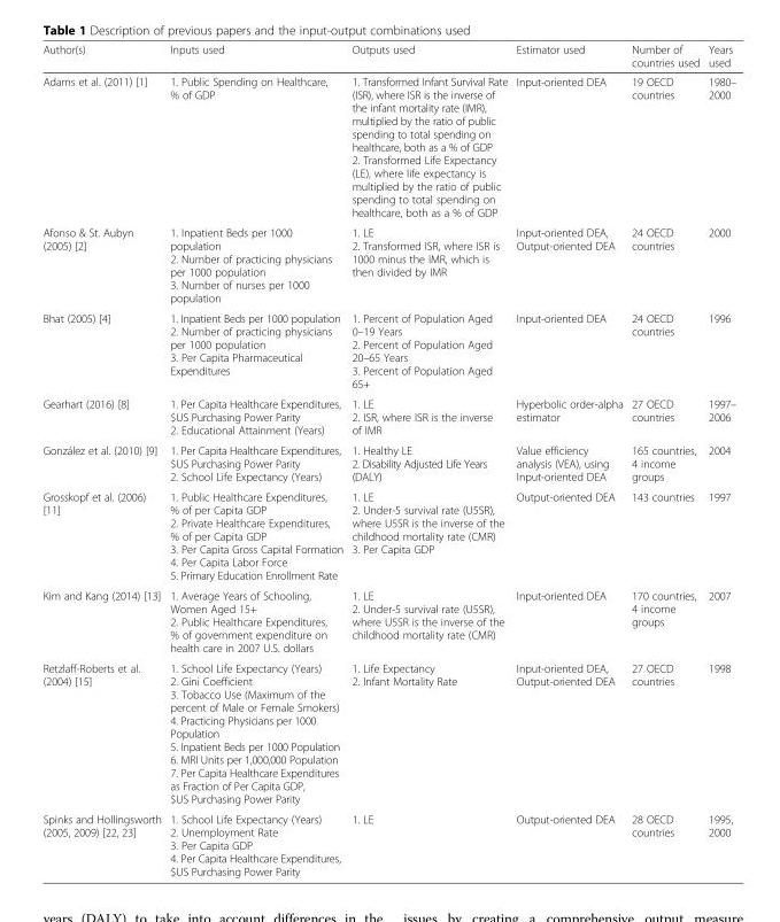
<table><thead><tr><td>Author(s)</td><td>Inputs used</td><td>Outputs used</td><td>Estimator used</td><td>Number of countries used</td><td>Years used</td></tr></thead><tbody><tr><td>Adams et al. (2011) [1]</td><td>1. Public Spending on Healthcare, % of GDP</td><td>1. Transformed Infant Survival Rate (ISR), where ISR is the inverse of the infant mortality rate (IMR), multiplied by the ratio of public spending to total spending on healthcare, both as a % of GDP 2. Transformed Life Expectancy (LE), where life expectancy is multiplied by the ratio of public spending to total spending on healthcare, both as a % of GDP</td><td>Input-oriented DEA</td><td>19 OECD countries</td><td>1980– 2000</td></tr><tr><td>Afonso &amp; St. Aubyn (2005) [2]</td><td>1. Inpatient Beds per 1000 population 2. Number of practicing physicians per 1000 population 3. Number of nurses per 1000 population</td><td>1. LE 2. Transformed ISR, where ISR is 1000 minus the IMR, which is then divided by IMR</td><td>Input-oriented DEA, Output-oriented DEA</td><td>24 OECD countries</td><td>2000</td></tr><tr><td>Bhat (2005) [4]</td><td>1. Inpatient Beds per 1000 population 2. Number of practicing physicians per 1000 population 3. Per Capita Pharmaceutical Expenditures</td><td>1. Percent of Population Aged 0–19 Years 2. Percent of Population Aged 20–65 Years 3. Percent of Population Aged 65+</td><td>Input-oriented DEA</td><td>24 OECD countries</td><td>1996</td></tr><tr><td>Gearhart (2016) [8]</td><td>1. Per Capita Healthcare Expenditures, $US Purchasing Power Parity 2. Educational Attainment (Years)</td><td>1. LE 2. ISR, where ISR is the inverse of IMR</td><td>Hyperbolic order-alpha estimator</td><td>27 OECD countries</td><td>1997– 2006</td></tr><tr><td>González et al. (2010) [9]</td><td>1. Per Capita Healthcare Expenditures, $US Purchasing Power Parity 2. School Life Expectancy (Years)</td><td>1. Healthy LE 2. Disability Adjusted Life Years (DALY)</td><td>Value efficiency analysis (VEA), using Input-oriented DEA</td><td>165 countries, 4 income groups</td><td>2004</td></tr><tr><td>Grosskopf et al. (2006) [11]</td><td>1. Public Healthcare Expenditures, % of per Capita GDP 2. Private Healthcare Expenditures, % of per Capita GDP 3. Per Capita Gross Capital Formation 4. Per Capita Labor Force 5. Primary Education Enrollment Rate</td><td>1. LE 2. Under-5 survival rate (U5SR), where U5SR is the inverse of the childhood mortality rate (CMR) 3. Per Capita GDP</td><td>Output-oriented DEA</td><td>143 countries</td><td>1997</td></tr><tr><td>Kim and Kang (2014) [13]</td><td>1. Average Years of Schooling, Women Aged 15+ 2. Public Healthcare Expenditures, % of government expenditure on health care in 2007 U.S. dollars</td><td>1. LE 2. Under-5 survival rate (U5SR), where U5SR is the inverse of the childhood mortality rate (CMR)</td><td>Input-oriented DEA</td><td>170 countries, 4 income groups</td><td>2007</td></tr><tr><td>Retzlaff-Roberts et al. (2004) [15]</td><td>1. School Life Expectancy (Years) 2. Gini Coefficient 3. Tobacco Use (Maximum of the percent of Male or Female Smokers) 4. Practicing Physicians per 1000 Population 5. Inpatient Beds per 1000 Population 6. MRI Units per 1,000,000 Population 7. Per Capita Healthcare Expenditures as Fraction of Per Capita GDP, $US Purchasing Power Parity</td><td>1. Life Expectancy 2. Infant Mortality Rate</td><td>Input-oriented DEA, Output-oriented DEA</td><td>27 OECD countries</td><td>1998</td></tr><tr><td>Spinks and Hollingsworth (2005, 2009) [22, 23]</td><td>1. School Life Expectancy (Years) 2. Unemployment Rate 3. Per Capita GDP 4. Per Capita Healthcare Expenditures, $US Purchasing Power Parity</td><td>1. LE</td><td>Output-oriented DEA</td><td>28 OECD countries</td><td>1995, 2000</td></tr></tbody></table>